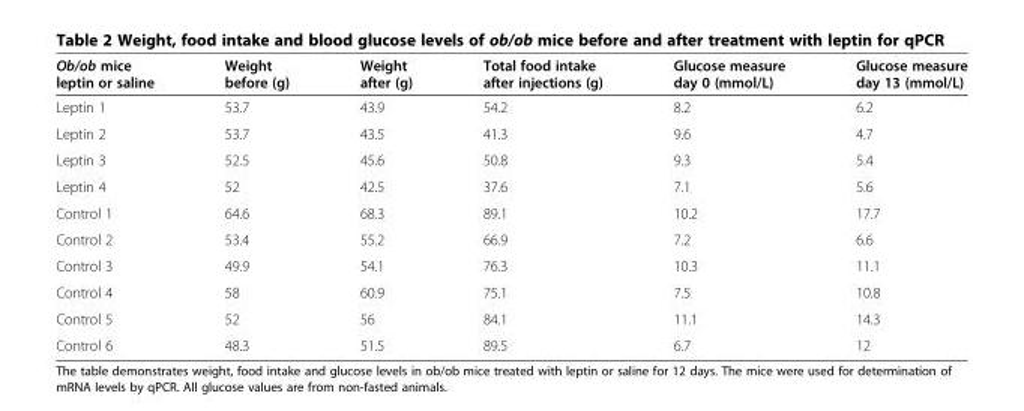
<table><thead><tr><td>Ob/ob mice leptin or saline</td><td>Weight before (g)</td><td>Weight after (g)</td><td>Total food intake after injections (g)</td><td>Glucose measure day 0 (mmol/L)</td><td>Glucose measure day 13 (mmol/L)</td></tr></thead><tbody><tr><td>Leptin 1</td><td>53.7</td><td>43.9</td><td>54.2</td><td>8.2</td><td>6.2</td></tr><tr><td>Leptin 2</td><td>53.7</td><td>43.5</td><td>41.3</td><td>9.6</td><td>4.7</td></tr><tr><td>Leptin 3</td><td>52.5</td><td>45.6</td><td>50.8</td><td>9.3</td><td>5.4</td></tr><tr><td>Leptin 4</td><td>52</td><td>42.5</td><td>37.6</td><td>7.1</td><td>5.6</td></tr><tr><td>Control 1</td><td>64.6</td><td>68.3</td><td>89.1</td><td>10.2</td><td>17.7</td></tr><tr><td>Control 2</td><td>53.4</td><td>55.2</td><td>66.9</td><td>7.2</td><td>6.6</td></tr><tr><td>Control 3</td><td>49.9</td><td>54.1</td><td>76.3</td><td>10.3</td><td>11.1</td></tr><tr><td>Control 4</td><td>58</td><td>60.9</td><td>75.1</td><td>7.5</td><td>10.8</td></tr><tr><td>Control 5</td><td>52</td><td>56</td><td>84.1</td><td>11.1</td><td>14.3</td></tr><tr><td>Control 6</td><td>48.3</td><td>51.5</td><td>89.5</td><td>6.7</td><td>12</td></tr></tbody></table>